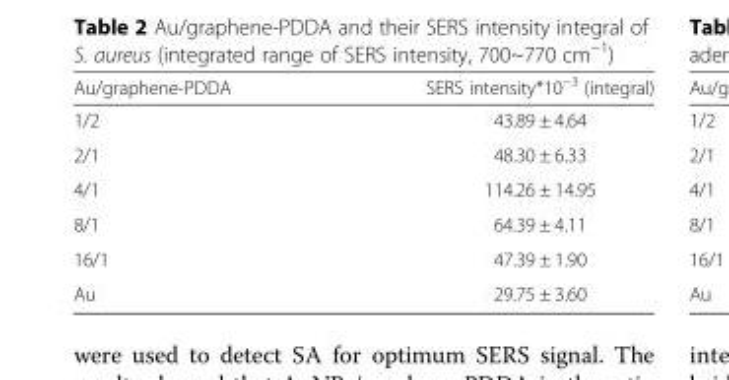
<table><thead><tr><td>Au/graphene-PDDA</td><td>SERS intensity*10<sup>−3</sup> (integral)</td></tr></thead><tbody><tr><td>1/2</td><td>43.89 ± 4.64</td></tr><tr><td>2/1</td><td>48.30 ± 6.33</td></tr><tr><td>4/1</td><td>114.26 ± 14.95</td></tr><tr><td>8/1</td><td>64.39 ± 4.11</td></tr><tr><td>16/1</td><td>47.39 ± 1.90</td></tr><tr><td>Au</td><td>29.75 ± 3.60</td></tr></tbody></table>